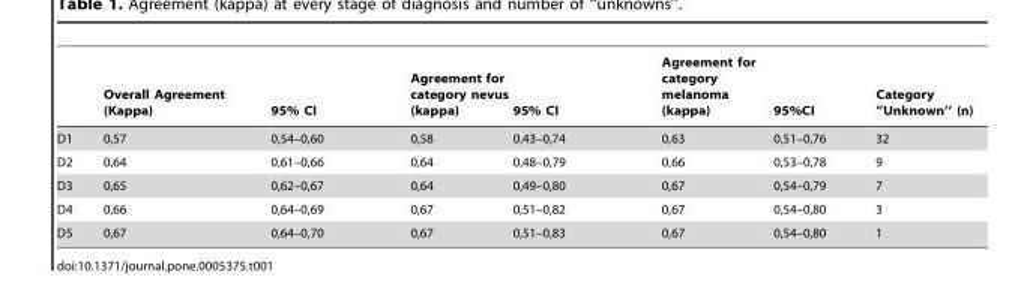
<table><thead><tr><td></td><td>Overall Agreement (Kappa)</td><td>95% CI</td><td>Agreement for category nevus (kappa)</td><td>95% CI</td><td>Agreement for category melanoma (kappa)</td><td>95%CI</td><td>Category ’’Unknown’’ (n)</td></tr></thead><tbody><tr><td>D1</td><td>0,57</td><td>0,54–0,60</td><td>0,58</td><td>0,43–0,74</td><td>0,63</td><td>0,51–0,76</td><td>32</td></tr><tr><td>D2</td><td>0,64</td><td>0,61–0,66</td><td>0,64</td><td>0,48–0,79</td><td>0,66</td><td>0,53–0,78</td><td>9</td></tr><tr><td>D3</td><td>0,65</td><td>0,62–0,67</td><td>0,64</td><td>0,49–0,80</td><td>0,67</td><td>0,54–0,79</td><td>7</td></tr><tr><td>D4</td><td>0,66</td><td>0,64–0,69</td><td>0,67</td><td>0,51–0,82</td><td>0,67</td><td>0,54–0,80</td><td>3</td></tr><tr><td>D5</td><td>0,67</td><td>0,64–0,70</td><td>0,67</td><td>0,51–0,83</td><td>0,67</td><td>0,54–0,80</td><td>1</td></tr></tbody></table>